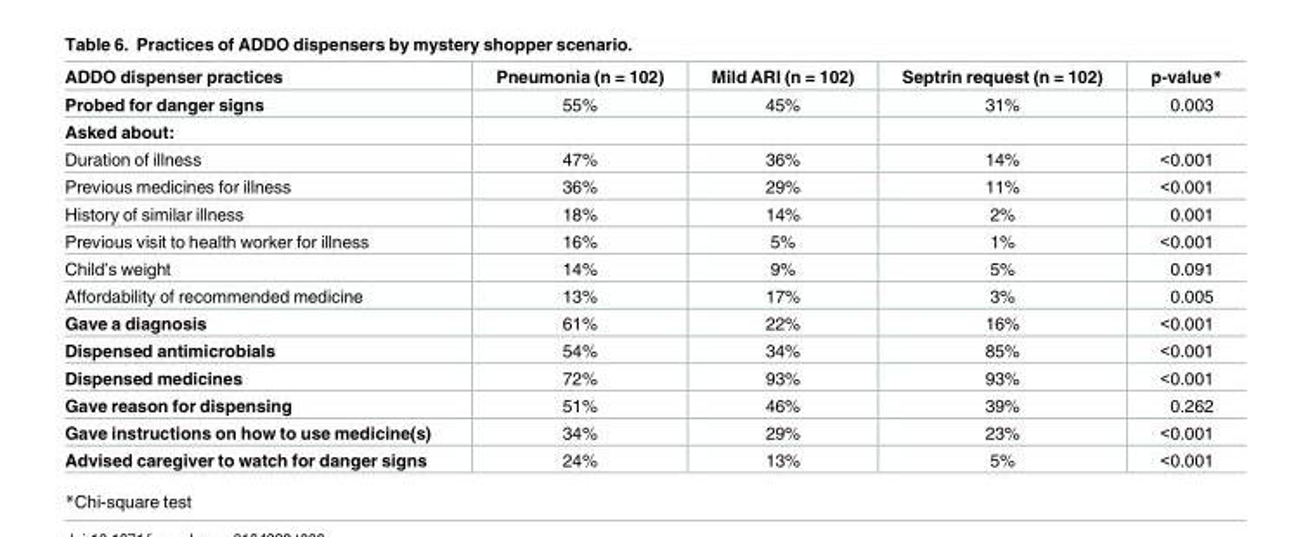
<table><thead><tr><td>ADDO dispenser practices</td><td>Pneumonia (n = 102)</td><td>Mild ARI (n = 102)</td><td>Septrin request (n = 102)</td><td>p-value*</td></tr></thead><tbody><tr><td>Probed for danger signs</td><td>55%</td><td>45%</td><td>31%</td><td>0.003</td></tr><tr><td colspan="5">Asked about:</td></tr><tr><td>Duration of illness</td><td>47%</td><td>36%</td><td>14%</td><td>&lt;0.001</td></tr><tr><td>Previous medicines for illness</td><td>36%</td><td>29%</td><td>11%</td><td>&lt;0.001</td></tr><tr><td>History of similar illness</td><td>18%</td><td>14%</td><td>2%</td><td>0.001</td></tr><tr><td>Previous visit to health worker for illness</td><td>16%</td><td>5%</td><td>1%</td><td>&lt;0.001</td></tr><tr><td>Child’s weight</td><td>14%</td><td>9%</td><td>5%</td><td>0.091</td></tr><tr><td>Affordability of recommended medicine</td><td>13%</td><td>17%</td><td>3%</td><td>0.005</td></tr><tr><td>Gave a diagnosis</td><td>61%</td><td>22%</td><td>16%</td><td>&lt;0.001</td></tr><tr><td>Dispensed antimicrobials</td><td>54%</td><td>34%</td><td>85%</td><td>&lt;0.001</td></tr><tr><td>Dispensed medicines</td><td>72%</td><td>93%</td><td>93%</td><td>&lt;0.001</td></tr><tr><td>Gave reason for dispensing</td><td>51%</td><td>46%</td><td>39%</td><td>0.262</td></tr><tr><td>Gave instructions on how to use medicine(s)</td><td>34%</td><td>29%</td><td>23%</td><td>&lt;0.001</td></tr><tr><td>Advised caregiver to watch for danger signs</td><td>24%</td><td>13%</td><td>5%</td><td>&lt;0.001</td></tr></tbody></table>